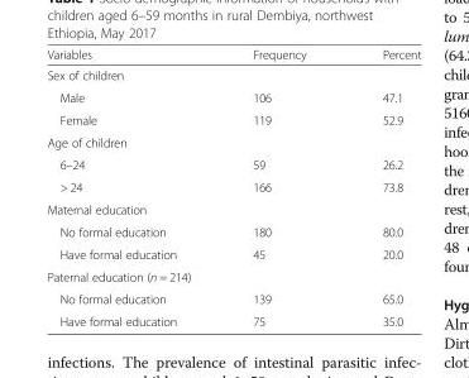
<table><thead><tr><td>Variables</td><td>Frequency</td><td>Percent</td></tr></thead><tbody><tr><td colspan="3">Sex of children</td></tr><tr><td>Male</td><td>106</td><td>47.1</td></tr><tr><td>Female</td><td>119</td><td>52.9</td></tr><tr><td colspan="3">Age of children</td></tr><tr><td>6–24</td><td>59</td><td>26.2</td></tr><tr><td>&gt; 24</td><td>166</td><td>73.8</td></tr><tr><td colspan="3">Maternal education</td></tr><tr><td>No formal education</td><td>180</td><td>80.0</td></tr><tr><td>Have formal education</td><td>45</td><td>20.0</td></tr><tr><td colspan="3">Paternal education (n = 214)</td></tr><tr><td>No formal education</td><td>139</td><td>65.0</td></tr><tr><td>Have formal education</td><td>75</td><td>35.0</td></tr></tbody></table>